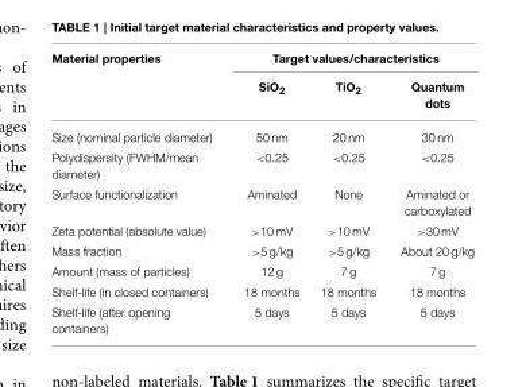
<table><thead><tr><td rowspan="2">Material properties</td><td colspan="3">Target values/characteristics</td></tr><tr><td>SiO<sub>2</sub></td><td>TiO<sub>2</sub></td><td>Quantum dots</td></tr></thead><tbody><tr><td>Size (nominal particle diameter)</td><td>50 nm</td><td>20 nm</td><td>30 nm</td></tr><tr><td>Polydispersity (FWHM/mean diameter)</td><td>&lt;0.25</td><td>&lt;0.25</td><td>&lt;0.25</td></tr><tr><td>Surface functionalization</td><td>Aminated</td><td>None</td><td>Aminated or carboxylated</td></tr><tr><td>Zeta potential (absolute value)</td><td>&gt;10 mV</td><td>&gt;10 mV</td><td>&gt;30 mV</td></tr><tr><td>Mass fraction</td><td>&gt;5 g/kg</td><td>&gt;5 g/kg</td><td>About 20 g/kg</td></tr><tr><td>Amount (mass of particles)</td><td>12 g</td><td>7 g</td><td>7 g</td></tr><tr><td>Shelf-life (in closed containers)</td><td>18 months</td><td>18 months</td><td>18 months</td></tr><tr><td>Shelf-life (after opening containers)</td><td>5 days</td><td>5 days</td><td>5 days</td></tr></tbody></table>